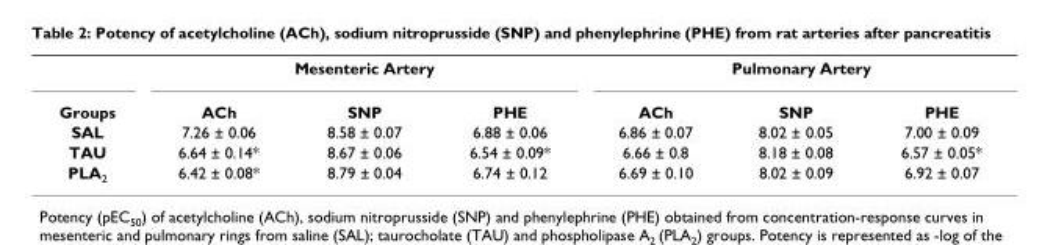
<table><thead><tr><td rowspan="2">Groups</td><td colspan="3">Mesenteric Artery</td><td colspan="3">Pulmonary Artery</td></tr><tr><td>ACh</td><td>SNP</td><td>PHE</td><td>ACh</td><td>SNP</td><td>PHE</td></tr></thead><tbody><tr><td>SAL</td><td>7.26 ± 0.06</td><td>8.58 ± 0.07</td><td>6.88 ± 0.06</td><td>6.86 ± 0.07</td><td>8.02 ± 0.05</td><td>7.00 ± 0.09</td></tr><tr><td>TAU</td><td>6.64 ± 0.14*</td><td>8.67 ± 0.06</td><td>6.54 ± 0.09*</td><td>6.66 ± 0.8</td><td>8.18 ± 0.08</td><td>6.57 ± 0.05*</td></tr><tr><td>PLA<sub>2</sub></td><td>6.42 ± 0.08*</td><td>8.79 ± 0.04</td><td>6.74 ± 0.12</td><td>6.69 ± 0.10</td><td>8.02 ± 0.09</td><td>6.92 ± 0.07</td></tr></tbody></table>